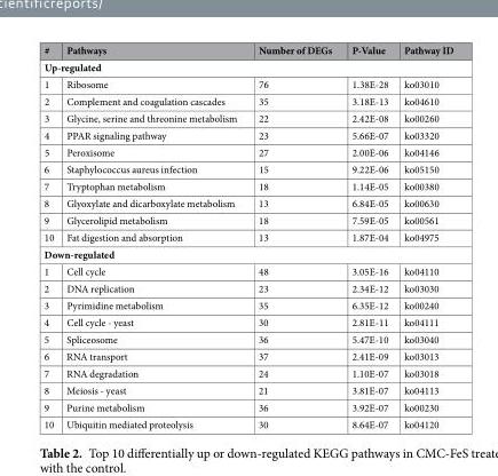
<table><thead><tr><td>#</td><td>Pathways</td><td>Number of DEGs</td><td>P-Value</td><td>Pathway ID</td></tr></thead><tbody><tr><td colspan="5">Up-regulated</td></tr><tr><td>1</td><td>Ribosome</td><td>76</td><td>1.38E-28</td><td>ko03010</td></tr><tr><td>2</td><td>Complement and coagulation cascades</td><td>35</td><td>3.18E-13</td><td>ko04610</td></tr><tr><td>3</td><td>Glycine, serine and threonine metabolism</td><td>22</td><td>2.42E-08</td><td>ko00260</td></tr><tr><td>4</td><td>PPAR signaling pathway</td><td>23</td><td>5.66E-07</td><td>ko03320</td></tr><tr><td>5</td><td>Peroxisome</td><td>27</td><td>2.00E-06</td><td>ko04146</td></tr><tr><td>6</td><td>Staphylococcus aureus infection</td><td>15</td><td>9.22E-06</td><td>ko05150</td></tr><tr><td>7</td><td>Tryptophan metabolism</td><td>18</td><td>1.14E-05</td><td>ko00380</td></tr><tr><td>8</td><td>Glyoxylate and dicarboxylate metabolism</td><td>13</td><td>6.84E-05</td><td>ko00630</td></tr><tr><td>9</td><td>Glycerolipid metabolism</td><td>18</td><td>7.59E-05</td><td>ko00561</td></tr><tr><td>10</td><td>Fat digestion and absorption</td><td>13</td><td>1.87E-04</td><td>ko04975</td></tr><tr><td colspan="5">Down-regulated</td></tr><tr><td>1</td><td>Cell cycle</td><td>48</td><td>3.05E-16</td><td>ko04110</td></tr><tr><td>2</td><td>DNA replication</td><td>23</td><td>2.34E-12</td><td>ko03030</td></tr><tr><td>3</td><td>Pyrimidine metabolism</td><td>35</td><td>6.35E-12</td><td>ko00240</td></tr><tr><td>4</td><td>Cell cycle - yeast</td><td>30</td><td>2.81E-11</td><td>ko04111</td></tr><tr><td>5</td><td>Spliceosome</td><td>36</td><td>5.47E-10</td><td>ko03040</td></tr><tr><td>6</td><td>RNA transport</td><td>37</td><td>2.41E-09</td><td>ko03013</td></tr><tr><td>7</td><td>RNA degradation</td><td>24</td><td>1.10E-07</td><td>ko03018</td></tr><tr><td>8</td><td>Meiosis - yeast</td><td>21</td><td>3.81E-07</td><td>ko04113</td></tr><tr><td>9</td><td>Purine metabolism</td><td>36</td><td>3.92E-07</td><td>ko00230</td></tr><tr><td>10</td><td>Ubiquitin mediated proteolysis</td><td>30</td><td>8.64E-07</td><td>ko04120</td></tr></tbody></table>